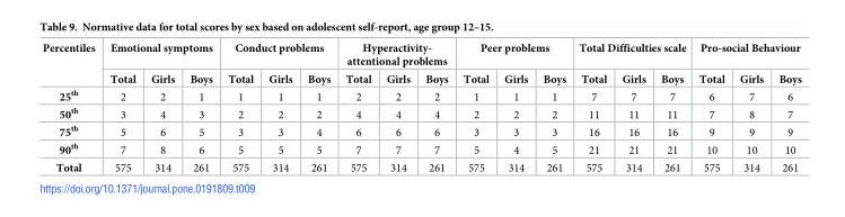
<table><thead><tr><td rowspan="2">Percentiles</td><td colspan="3">Emotional symptoms</td><td colspan="3">Conduct problems</td><td colspan="3">Hyperactivity- attentional problems</td><td colspan="3">Peer problems</td><td colspan="3">Total Difficulties scale</td><td colspan="3">Pro-social Behaviour</td></tr><tr><td>Total</td><td>Girls</td><td>Boys</td><td>Total</td><td>Girls</td><td>Boys</td><td>Total</td><td>Girls</td><td>Boys</td><td>Total</td><td>Girls</td><td>Boys</td><td>Total</td><td>Girls</td><td>Boys</td><td>Total</td><td>Girls</td><td>Boys</td></tr></thead><tbody><tr><td>25<sup>th</sup></td><td>2</td><td>2</td><td>1</td><td>1</td><td>1</td><td>1</td><td>2</td><td>2</td><td>2</td><td>1</td><td>1</td><td>1</td><td>7</td><td>7</td><td>7</td><td>6</td><td>7</td><td>6</td></tr><tr><td>50<sup>th</sup></td><td>3</td><td>4</td><td>3</td><td>2</td><td>2</td><td>2</td><td>4</td><td>4</td><td>4</td><td>2</td><td>2</td><td>2</td><td>11</td><td>11</td><td>11</td><td>7</td><td>8</td><td>7</td></tr><tr><td>75<sup>th</sup></td><td>5</td><td>6</td><td>5</td><td>3</td><td>3</td><td>4</td><td>6</td><td>6</td><td>6</td><td>3</td><td>3</td><td>3</td><td>16</td><td>16</td><td>16</td><td>9</td><td>9</td><td>9</td></tr><tr><td>90<sup>th</sup></td><td>7</td><td>8</td><td>6</td><td>5</td><td>5</td><td>5</td><td>7</td><td>7</td><td>7</td><td>5</td><td>4</td><td>5</td><td>21</td><td>21</td><td>21</td><td>10</td><td>10</td><td>10</td></tr><tr><td>Total</td><td>575</td><td>314</td><td>261</td><td>575</td><td>314</td><td>261</td><td>575</td><td>314</td><td>261</td><td>575</td><td>314</td><td>261</td><td>575</td><td>314</td><td>261</td><td>575</td><td>314</td><td>261</td></tr></tbody></table>